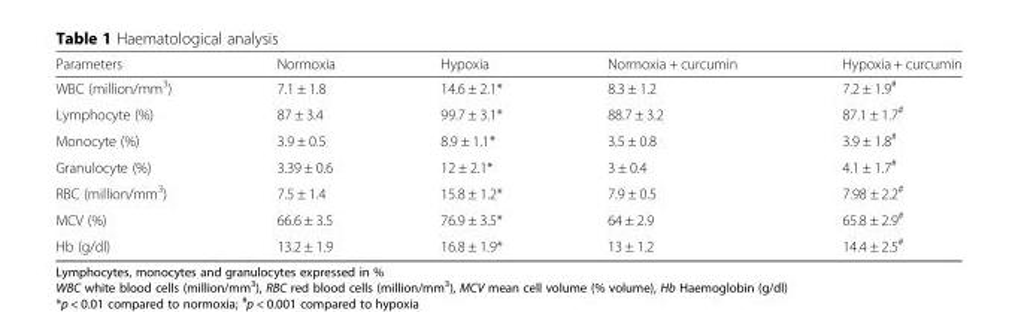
<table><thead><tr><td>Parameters</td><td>Normoxia</td><td>Hypoxia</td><td>Normoxia + curcumin</td><td>Hypoxia + curcumin</td></tr></thead><tbody><tr><td>WBC (million/mm<sup>3</sup>)</td><td>7.1 ± 1.8</td><td>14.6 ± 2.1*</td><td>8.3 ± 1.2</td><td>7.2 ± 1.9<sup>#</sup></td></tr><tr><td>Lymphocyte (%)</td><td>87 ± 3.4</td><td>99.7 ± 3.1*</td><td>88.7 ± 3.2</td><td>87.1 ± 1.7<sup>#</sup></td></tr><tr><td>Monocyte (%)</td><td>3.9 ± 0.5</td><td>8.9 ± 1.1*</td><td>3.5 ± 0.8</td><td>3.9 ± 1.8<sup>#</sup></td></tr><tr><td>Granulocyte (%)</td><td>3.39 ± 0.6</td><td>12 ± 2.1*</td><td>3 ± 0.4</td><td>4.1 ± 1.7<sup>#</sup></td></tr><tr><td>RBC (million/mm<sup>3</sup>)</td><td>7.5 ± 1.4</td><td>15.8 ± 1.2*</td><td>7.9 ± 0.5</td><td>7.98 ± 2.2<sup>#</sup></td></tr><tr><td>MCV (%)</td><td>66.6 ± 3.5</td><td>76.9 ± 3.5*</td><td>64 ± 2.9</td><td>65.8 ± 2.9<sup>#</sup></td></tr><tr><td>Hb (g/dl)</td><td>13.2 ± 1.9</td><td>16.8 ± 1.9*</td><td>13 ± 1.2</td><td>14.4 ± 2.5<sup>#</sup></td></tr></tbody></table>